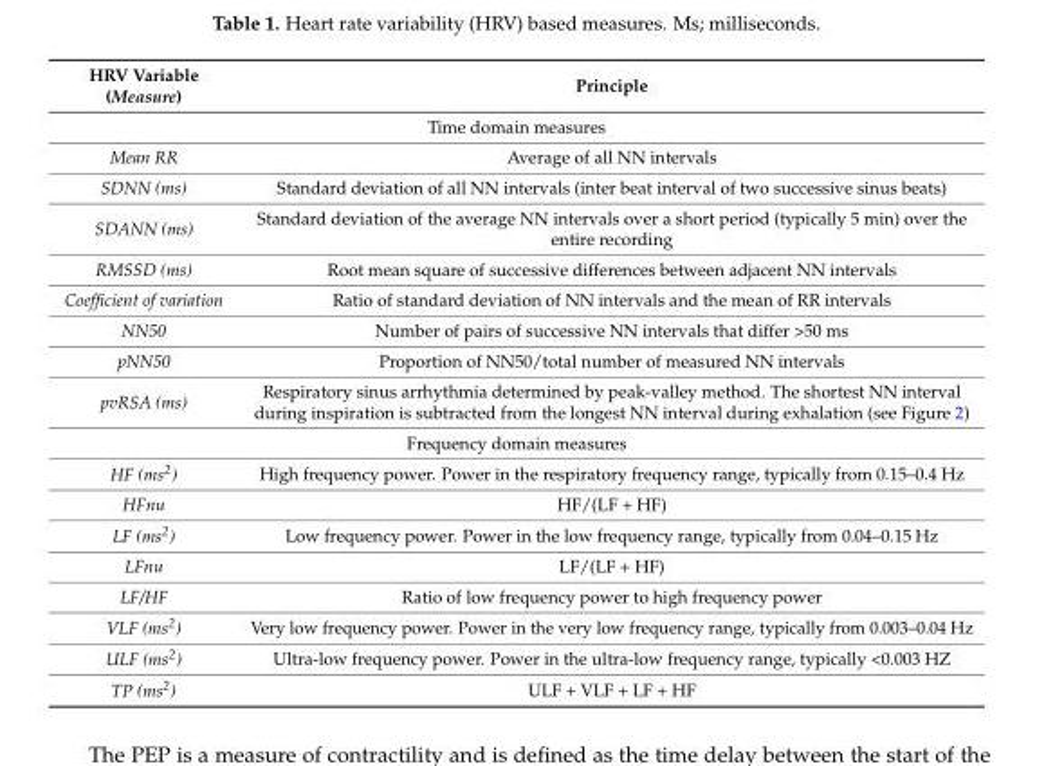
<table><thead><tr><td>HRV Variable (Measure)</td><td>Principle</td></tr></thead><tbody><tr><td colspan="2">Time domain measures</td></tr><tr><td>Mean RR</td><td>Average of all NN intervals</td></tr><tr><td>SDNN (ms)</td><td>Standard deviation of all NN intervals (inter beat interval of two successive sinus beats)</td></tr><tr><td>SDANN (ms)</td><td>Standard deviation of the average NN intervals over a short period (typically 5 min) over the entire recording</td></tr><tr><td>RMSSD (ms)</td><td>Root mean square of successive differences between adjacent NN intervals</td></tr><tr><td>Coefficient of variation</td><td>Ratio of standard deviation of NN intervals and the mean of RR intervals</td></tr><tr><td>NN50</td><td>Number of pairs of successive NN intervals that differ &gt;50 ms</td></tr><tr><td>pNN50</td><td>Proportion of NN50/total number of measured NN intervals</td></tr><tr><td>pvRSA (ms)</td><td>Respiratory sinus arrhythmia determined by peak-valley method. The shortest NN interval during inspiration is subtracted from the longest NN interval during exhalation (see Figure 2)</td></tr><tr><td colspan="2">Frequency domain measures</td></tr><tr><td>HF (ms<sup>2</sup>)</td><td>High frequency power. Power in the respiratory frequency range, typically from 0.15–0.4 Hz</td></tr><tr><td>HFnu</td><td>HF/(LF + HF)</td></tr><tr><td>LF (ms<sup>2</sup>)</td><td>Low frequency power. Power in the low frequency range, typically from 0.04–0.15 Hz</td></tr><tr><td>LFnu</td><td>LF/(LF + HF)</td></tr><tr><td>LF/HF</td><td>Ratio of low frequency power to high frequency power</td></tr><tr><td>VLF (ms<sup>2</sup>)</td><td>Very low frequency power. Power in the very low frequency range, typically from 0.003–0.04 Hz</td></tr><tr><td>ULF (ms<sup>2</sup>)</td><td>Ultra-low frequency power. Power in the ultra-low frequency range, typically &lt;0.003 HZ</td></tr><tr><td>TP (ms<sup>2</sup>)</td><td>ULF + VLF + LF + HF</td></tr></tbody></table>